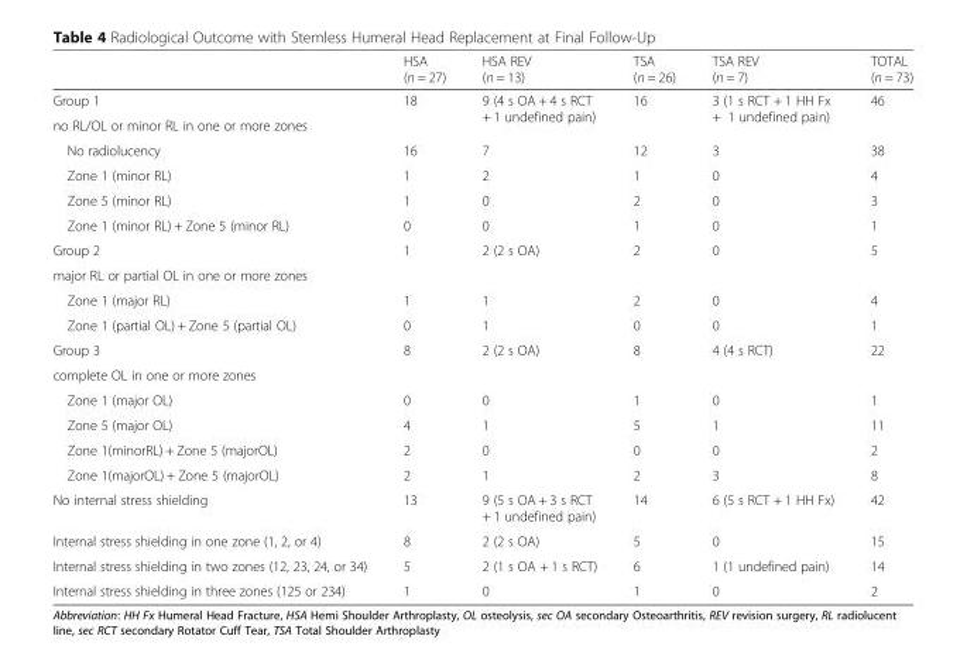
<table><thead><tr><td></td><td>HSA (n = 27)</td><td>HSA REV (n = 13)</td><td>TSA (n = 26)</td><td>TSA REV (n = 7)</td><td>TOTAL (n = 73)</td></tr></thead><tbody><tr><td>Group 1</td><td rowspan="2">18</td><td rowspan="2">9 (4 s OA + 4 s RCT + 1 undefined pain)</td><td rowspan="2">16</td><td rowspan="2">3 (1 s RCT + 1 HH Fx + 1 undefined pain)</td><td rowspan="2">46</td></tr><tr><td>no RL/OL or minor RL in one or more zones</td></tr><tr><td>No radiolucency</td><td>16</td><td>7</td><td>12</td><td>3</td><td>38</td></tr><tr><td>Zone 1 (minor RL)</td><td>1</td><td>2</td><td>1</td><td>0</td><td>4</td></tr><tr><td>Zone 5 (minor RL)</td><td>1</td><td>0</td><td>2</td><td>0</td><td>3</td></tr><tr><td>Zone 1 (minor RL) + Zone 5 (minor RL)</td><td>0</td><td>0</td><td>1</td><td>0</td><td>1</td></tr><tr><td>Group 2</td><td rowspan="2">1</td><td rowspan="2">2 (2 s OA)</td><td rowspan="2">2</td><td rowspan="2">0</td><td rowspan="2">5</td></tr><tr><td>major RL or partial OL in one or more zones</td></tr><tr><td>Zone 1 (major RL)</td><td>1</td><td>1</td><td>2</td><td>0</td><td>4</td></tr><tr><td>Zone 1 (partial OL) + Zone 5 (partial OL)</td><td>0</td><td>1</td><td>0</td><td>0</td><td>1</td></tr><tr><td>Group 3</td><td rowspan="2">8</td><td rowspan="2">2 (2 s OA)</td><td rowspan="2">8</td><td rowspan="2">4 (4 s RCT)</td><td rowspan="2">22</td></tr><tr><td>complete OL in one or more zones</td></tr><tr><td>Zone 1 (major OL)</td><td>0</td><td>0</td><td>1</td><td>0</td><td>1</td></tr><tr><td>Zone 5 (major OL)</td><td>4</td><td>1</td><td>5</td><td>1</td><td>11</td></tr><tr><td>Zone 1(minorRL) + Zone 5 (majorOL)</td><td>2</td><td>0</td><td>0</td><td>0</td><td>2</td></tr><tr><td>Zone 1(majorOL) + Zone 5 (majorOL)</td><td>2</td><td>1</td><td>2</td><td>3</td><td>8</td></tr><tr><td>No internal stress shielding</td><td>13</td><td>9 (5 s OA + 3 s RCT + 1 undefined pain)</td><td>14</td><td>6 (5 s RCT + 1 HH Fx)</td><td>42</td></tr><tr><td>Internal stress shielding in one zone (1, 2, or 4)</td><td>8</td><td>2 (2 s OA)</td><td>5</td><td>0</td><td>15</td></tr><tr><td>Internal stress shielding in two zones (12, 23, 24, or 34)</td><td>5</td><td>2 (1 s OA + 1 s RCT)</td><td>6</td><td>1 (1 undefined pain)</td><td>14</td></tr><tr><td>Internal stress shielding in three zones (125 or 234)</td><td>1</td><td>0</td><td>1</td><td>0</td><td>2</td></tr></tbody></table>